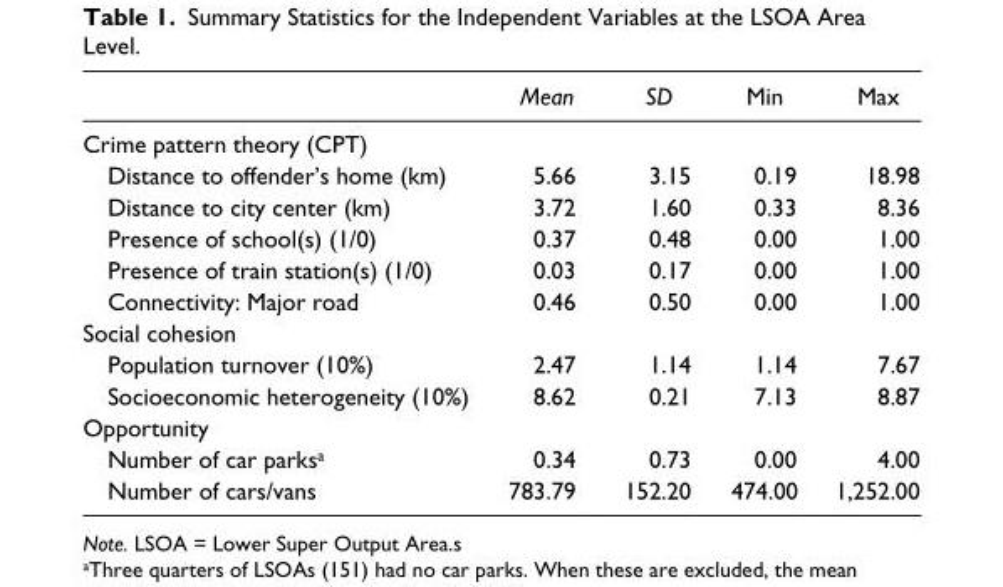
<table><thead><tr><td></td><td>Mean</td><td>SD</td><td>Min</td><td>Max</td></tr></thead><tbody><tr><td colspan="5">Crime pattern theory (CPT)</td></tr><tr><td>Distance to offender’s home (km)</td><td>5.66</td><td>3.15</td><td>0.19</td><td>18.98</td></tr><tr><td>Distance to city center (km)</td><td>3.72</td><td>1.60</td><td>0.33</td><td>8.36</td></tr><tr><td>Presence of school(s) (1/0)</td><td>0.37</td><td>0.48</td><td>0.00</td><td>1.00</td></tr><tr><td>Presence of train station(s) (1/0)</td><td>0.03</td><td>0.17</td><td>0.00</td><td>1.00</td></tr><tr><td>Connectivity: Major road</td><td>0.46</td><td>0.50</td><td>0.00</td><td>1.00</td></tr><tr><td colspan="5">Social cohesion</td></tr><tr><td>Population turnover (10%)</td><td>2.47</td><td>1.14</td><td>1.14</td><td>7.67</td></tr><tr><td>Socioeconomic heterogeneity (10%)</td><td>8.62</td><td>0.21</td><td>7.13</td><td>8.87</td></tr><tr><td colspan="5">Opportunity</td></tr><tr><td>Number of car parks<sup>a</sup></td><td>0.34</td><td>0.73</td><td>0.00</td><td>4.00</td></tr><tr><td>Number of cars/vans</td><td>783.79</td><td>152.20</td><td>474.00</td><td>1,252.00</td></tr></tbody></table>